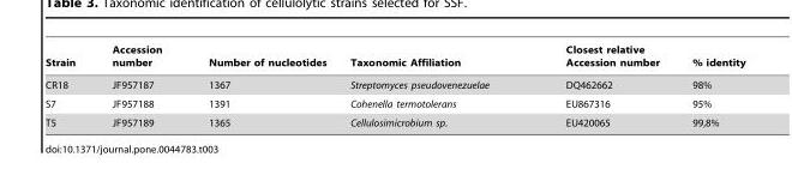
<table><thead><tr><td>Strain</td><td>Accession number</td><td>Number of nucleotides</td><td>Taxonomic Affiliation</td><td>Closest relative Accession number</td><td>% identity</td></tr></thead><tbody><tr><td>CR18</td><td>JF957187</td><td>1367</td><td>Streptomyces pseudovenezuelae</td><td>DQ462662</td><td>98%</td></tr><tr><td>S7</td><td>JF957188</td><td>1391</td><td>Cohenella termotolerans</td><td>EU867316</td><td>95%</td></tr><tr><td>T5</td><td>JF957189</td><td>1365</td><td>Cellulosimicrobium sp.</td><td>EU420065</td><td>99,8%</td></tr></tbody></table>